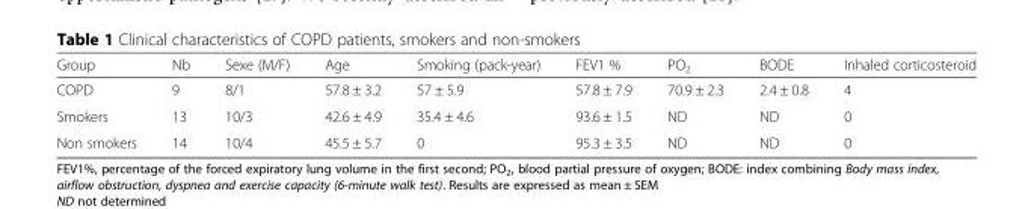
<table><thead><tr><td>Group</td><td>Nb</td><td>Sexe (M/F)</td><td>Age</td><td>Smoking (pack-year)</td><td>FEV1 %</td><td>PO<sub>2</sub></td><td>BODE</td><td>Inhaled corticosteroid</td></tr></thead><tbody><tr><td>COPD</td><td>9</td><td>8/1</td><td>57.8 ± 3.2</td><td>57 ± 5.9</td><td>57.8 ± 7.9</td><td>70.9 ± 2.3</td><td>2.4 ± 0.8</td><td>4</td></tr><tr><td>Smokers</td><td>13</td><td>10/3</td><td>42.6 ± 4.9</td><td>35.4 ± 4.6</td><td>93.6 ± 1.5</td><td>ND</td><td>ND</td><td>0</td></tr><tr><td>Non smokers</td><td>14</td><td>10/4</td><td>45.5 ± 5.7</td><td>0</td><td>95.3 ± 3.5</td><td>ND</td><td>ND</td><td>0</td></tr></tbody></table>